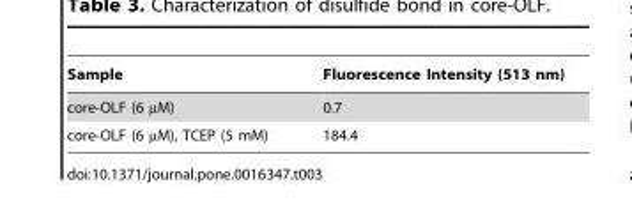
<table><thead><tr><td>Sample</td><td>Fluorescence Intensity (513 nm)</td></tr></thead><tbody><tr><td>core-OLF (6 µM)</td><td>0.7</td></tr><tr><td>core-OLF (6 µM), TCEP (5 mM)</td><td>184.4</td></tr></tbody></table>